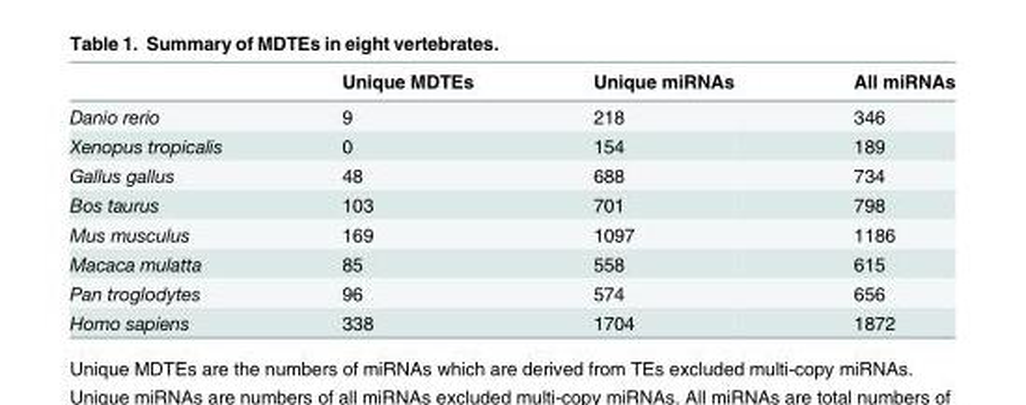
<table><thead><tr><td></td><td>Unique MDTEs</td><td>Unique miRNAs</td><td>All miRNAs</td></tr></thead><tbody><tr><td>Danio rerio</td><td>9</td><td>218</td><td>346</td></tr><tr><td>Xenopus tropicalis</td><td>0</td><td>154</td><td>189</td></tr><tr><td>Gallus gallus</td><td>48</td><td>688</td><td>734</td></tr><tr><td>Bos taurus</td><td>103</td><td>701</td><td>798</td></tr><tr><td>Mus musculus</td><td>169</td><td>1097</td><td>1186</td></tr><tr><td>Macaca mulatta</td><td>85</td><td>558</td><td>615</td></tr><tr><td>Pan troglodytes</td><td>96</td><td>574</td><td>656</td></tr><tr><td>Homo sapiens</td><td>338</td><td>1704</td><td>1872</td></tr></tbody></table>